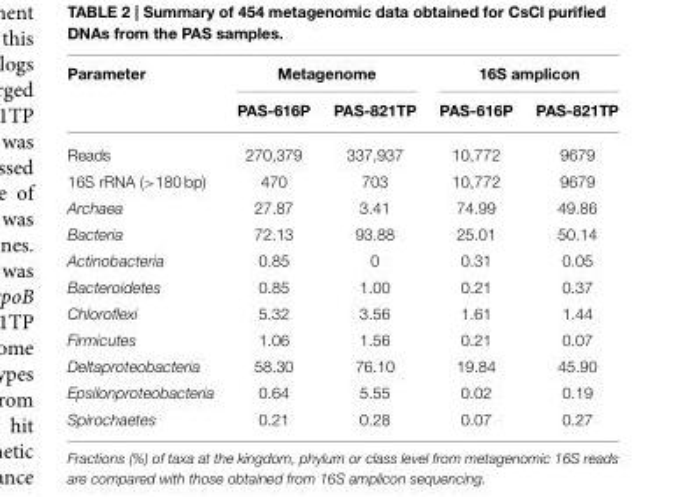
<table><thead><tr><td rowspan="2">Parameter</td><td colspan="2">Metagenome</td><td colspan="2">16S amplicon</td></tr><tr><td>PAS-616P</td><td>PAS-821TP</td><td>PAS-616P</td><td>PAS-821TP</td></tr></thead><tbody><tr><td>Reads</td><td>270,379</td><td>337,937</td><td>10,772</td><td>9679</td></tr><tr><td>16S rRNA (&gt;180 bp)</td><td>470</td><td>703</td><td>10,772</td><td>9679</td></tr><tr><td>Archaea</td><td>27.87</td><td>3.41</td><td>74.99</td><td>49.86</td></tr><tr><td>Bacteria</td><td>72.13</td><td>93.88</td><td>25.01</td><td>50.14</td></tr><tr><td>Actinobacteria</td><td>0.85</td><td>0</td><td>0.31</td><td>0.05</td></tr><tr><td>Bacteroidetes</td><td>0.85</td><td>1.00</td><td>0.21</td><td>0.37</td></tr><tr><td>Chloroflexi</td><td>5.32</td><td>3.56</td><td>1.61</td><td>1.44</td></tr><tr><td>Firmicutes</td><td>1.06</td><td>1.56</td><td>0.21</td><td>0.07</td></tr><tr><td>Deltaproteobacteria</td><td>58.30</td><td>76.10</td><td>19.84</td><td>45.90</td></tr><tr><td>Epsilonproteobacteria</td><td>0.64</td><td>5.55</td><td>0.02</td><td>0.19</td></tr><tr><td>Spirochaetes</td><td>0.21</td><td>0.28</td><td>0.07</td><td>0.27</td></tr></tbody></table>